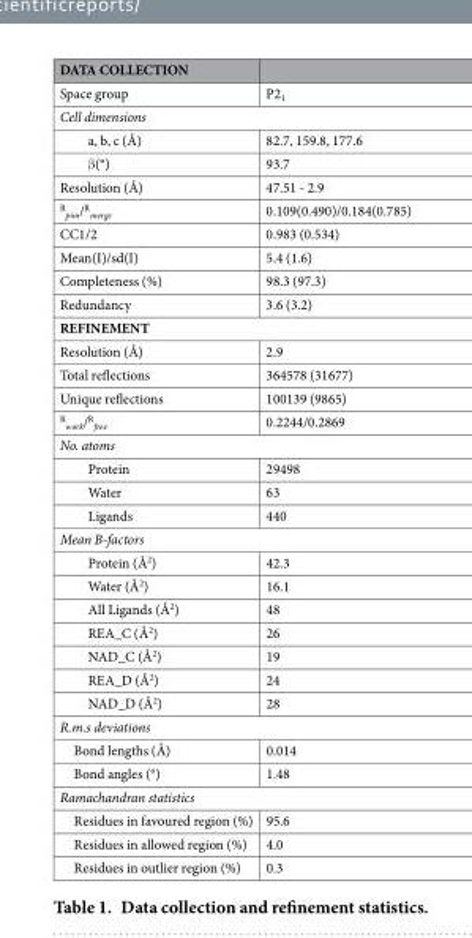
<table><thead><tr><td>DATA COLLECTION</td><td></td></tr></thead><tbody><tr><td>Space group</td><td>P2<sub>1</sub></td></tr><tr><td colspan="2">Cell dimensions</td></tr><tr><td>a, b, c (Å)</td><td>82.7, 159.8, 177.6</td></tr><tr><td>β (°)</td><td>93.7</td></tr><tr><td>Resolution (Å)</td><td>47.51 - 2.9</td></tr><tr><td><sup>R</sup> <sub>pim</sub>/<sup>R</sup> <sub>merge</sub></td><td>0.109(0.490)/0.184(0.785)</td></tr><tr><td>CC1/2</td><td>0.983 (0.534)</td></tr><tr><td>Mean(I)/sd(I)</td><td>5.4 (1.6)</td></tr><tr><td>Completeness (%)</td><td>98.3 (97.3)</td></tr><tr><td>Redundancy</td><td>3.6 (3.2)</td></tr><tr><td colspan="2">REFINEMENT</td></tr><tr><td>Resolution (Å)</td><td>2.9</td></tr><tr><td>Total reflections</td><td>364578 (31677)</td></tr><tr><td>Unique reflections</td><td>100139 (9865)</td></tr><tr><td><sup>R</sup> <sub>work</sub>/<sup>R</sup> <sub>free</sub></td><td>0.2244/0.2869</td></tr><tr><td colspan="2">No. atoms</td></tr><tr><td>Protein</td><td>29498</td></tr><tr><td>Water</td><td>63</td></tr><tr><td>Ligands</td><td>440</td></tr><tr><td colspan="2">Mean B-factors</td></tr><tr><td>Protein (Å<sup>2</sup>)</td><td>42.3</td></tr><tr><td>Water (Å<sup>2</sup>)</td><td>16.1</td></tr><tr><td>All Ligands (Å<sup>2</sup>)</td><td>48</td></tr><tr><td>REA_C (Å<sup>2</sup>)</td><td>26</td></tr><tr><td>NAD_C (Å<sup>2</sup>)</td><td>19</td></tr><tr><td>REA_D (Å<sup>2</sup>)</td><td>24</td></tr><tr><td>NAD_D (Å<sup>2</sup>)</td><td>28</td></tr><tr><td colspan="2">R.m.s deviations</td></tr><tr><td>Bond lengths (Å)</td><td>0.014</td></tr><tr><td>Bond angles (°)</td><td>1.48</td></tr><tr><td colspan="2">Ramachandran statistics</td></tr><tr><td>Residues in favoured region (%)</td><td>95.6</td></tr><tr><td>Residues in allowed region (%)</td><td>4.0</td></tr><tr><td>Residues in outlier region (%)</td><td>0.3</td></tr></tbody></table>